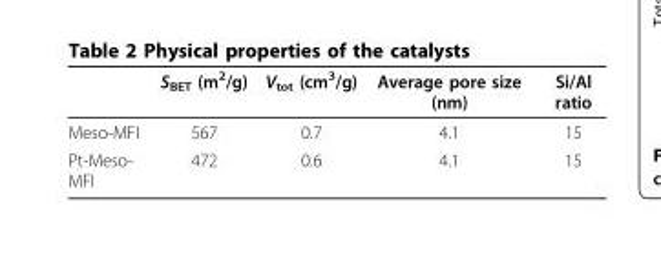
<table><thead><tr><td></td><td>S<sub>BET</sub> (m<sup>2</sup>/g)</td><td>V<sub>tot</sub> (cm<sup>3</sup>/g)</td><td>Average pore size (nm)</td><td>Si/Al ratio</td></tr></thead><tbody><tr><td>Meso-MFI</td><td>567</td><td>0.7</td><td>4.1</td><td>15</td></tr><tr><td>Pt-Meso- MFI</td><td>472</td><td>0.6</td><td>4.1</td><td>15</td></tr></tbody></table>